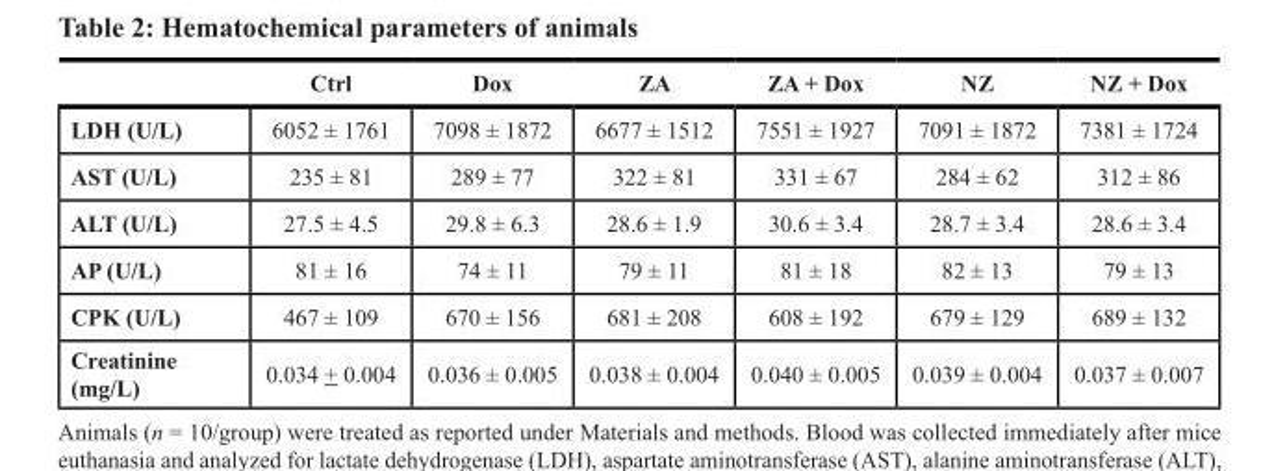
<table><thead><tr><td></td><td>Ctrl</td><td>Dox</td><td>ZA</td><td>ZA + Dox</td><td>NZ</td><td>NZ + Dox</td></tr></thead><tbody><tr><td>LDH (U/L)</td><td>6052 ± 1761</td><td>7098 ± 1872</td><td>6677 ± 1512</td><td>7551 ± 1927</td><td>7091 ± 1872</td><td>7381 ± 1724</td></tr><tr><td>AST (U/L)</td><td>235 ± 81</td><td>289 ± 77</td><td>322 ± 81</td><td>331 ± 67</td><td>284 ± 62</td><td>312 ± 86</td></tr><tr><td>ALT (U/L)</td><td>27.5 ± 4.5</td><td>29.8 ± 6.3</td><td>28.6 ± 1.9</td><td>30.6 ± 3.4</td><td>28.7 ± 3.4</td><td>28.6 ± 3.4</td></tr><tr><td>AP (U/L)</td><td>81 ± 16</td><td>74 ± 11</td><td>79 ± 11</td><td>81 ± 18</td><td>82 ± 13</td><td>79 ± 13</td></tr><tr><td>CPK (U/L)</td><td>467 ± 109</td><td>670 ± 156</td><td>681 ± 208</td><td>608 ± 192</td><td>679 ± 129</td><td>689 ± 132</td></tr><tr><td>Creatinine (mg/L)</td><td>0.034 + 0.004</td><td>0.036 ± 0.005</td><td>0.038 ± 0.004</td><td>0.040 ± 0.005</td><td>0.039 ± 0.004</td><td>0.037 ± 0.007</td></tr></tbody></table>